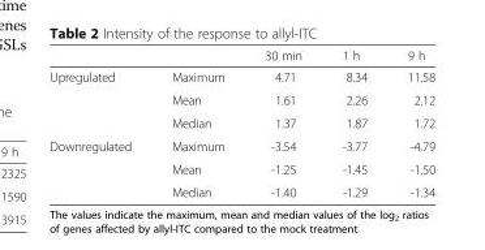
<table><thead><tr><td></td><td></td><td>30 min</td><td>1 h</td><td>9 h</td></tr></thead><tbody><tr><td rowspan="3">Upregulated</td><td>Maximum</td><td>4.71</td><td>8.34</td><td>11.58</td></tr><tr><td>Mean</td><td>1.61</td><td>2.26</td><td>2.12</td></tr><tr><td>Median</td><td>1.37</td><td>1.87</td><td>1.72</td></tr><tr><td rowspan="3">Downregulated</td><td>Maximum</td><td>-3.54</td><td>-3.77</td><td>-4.79</td></tr><tr><td>Mean</td><td>-1.25</td><td>-1.45</td><td>-1.50</td></tr><tr><td>Median</td><td>-1.40</td><td>-1.29</td><td>-1.34</td></tr></tbody></table>